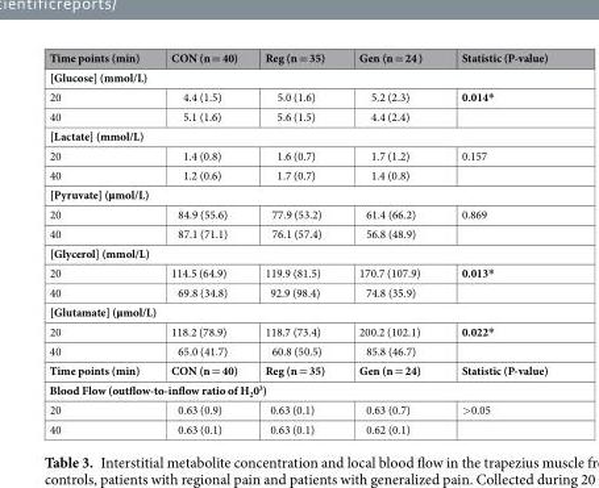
<table><thead><tr><td>Time points (min)</td><td>CON (n = 40)</td><td>Reg (n = 35)</td><td>Gen (n = 24 )</td><td>Statistic (P-value)</td></tr></thead><tbody><tr><td colspan="5">[Glucose] (mmol/L)</td></tr><tr><td>20</td><td>4.4 (1.5)</td><td>5.0 (1.6)</td><td>5.2 (2.3)</td><td>0.014*</td></tr><tr><td>40</td><td>5.1 (1.6)</td><td>5.6 (1.5)</td><td>4.4 (2.4)</td><td></td></tr><tr><td colspan="5">[Lactate] (mmol/L)</td></tr><tr><td>20</td><td>1.4 (0.8)</td><td>1.6 (0.7)</td><td>1.7 (1.2)</td><td>0.157</td></tr><tr><td>40</td><td>1.2 (0.6)</td><td>1.7 (0.7)</td><td>1.4 (0.8)</td><td></td></tr><tr><td colspan="5">[Pyruvate] (µmol/L)</td></tr><tr><td>20</td><td>84.9 (55.6)</td><td>77.9 (53.2)</td><td>61.4 (66.2)</td><td>0.869</td></tr><tr><td>40</td><td>87.1 (71.1)</td><td>76.1 (57.4)</td><td>56.8 (48.9)</td><td></td></tr><tr><td colspan="5">[Glycerol] (mmol/L)</td></tr><tr><td>20</td><td>114.5 (64.9)</td><td>119.9 (81.5)</td><td>170.7 (107.9)</td><td>0.013*</td></tr><tr><td>40</td><td>69.8 (34.8)</td><td>92.9 (98.4)</td><td>74.8 (35.9)</td><td></td></tr><tr><td colspan="5">[Glutamate] (µmol/L)</td></tr><tr><td>20</td><td>118.2 (78.9)</td><td>118.7 (73.4)</td><td>200.2 (102.1)</td><td>0.022*</td></tr><tr><td>40</td><td>65.0 (41.7)</td><td>60.8 (50.5)</td><td>85.8 (46.7)</td><td></td></tr><tr><td>Time points (min)</td><td>CON (n = 40)</td><td>Reg (n = 35)</td><td>Gen (n = 24)</td><td>Statistic (P-value)</td></tr><tr><td colspan="5">Blood Flow (outflow-to-inflow ratio of H<sub>2</sub>0<sup>3</sup>)</td></tr><tr><td>20</td><td>0.63 (0.9)</td><td>0.63 (0.1)</td><td>0.63 (0.7)</td><td>&gt;0.05</td></tr><tr><td>40</td><td>0.63 (0.1)</td><td>0.63 (0.1)</td><td>0.62 (0.1)</td><td></td></tr></tbody></table>